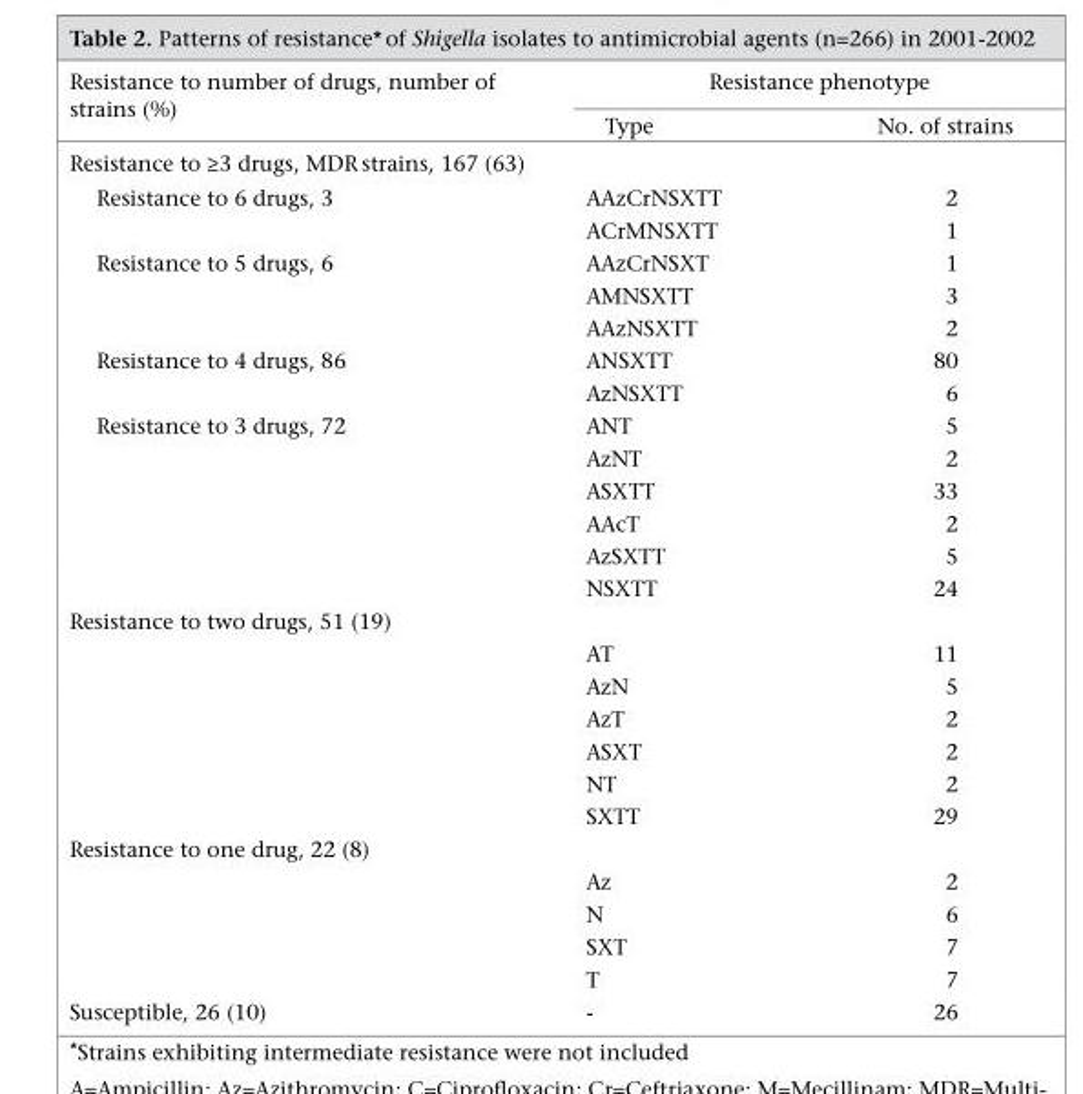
<table><thead><tr><td rowspan="2">Resistance to number of drugs, number of strains (%)</td><td colspan="2">Resistance phenotype</td></tr><tr><td>Type</td><td>No. of strains</td></tr></thead><tbody><tr><td colspan="3">Resistance to ≥3 drugs, MDR strains, 167 (63)</td></tr><tr><td rowspan="2">Resistance to 6 drugs, 3</td><td>AAzCrNSXTT</td><td>2</td></tr><tr><td>ACrMNSXTT</td><td>1</td></tr><tr><td rowspan="3">Resistance to 5 drugs, 6</td><td>AAzCrNSXT</td><td>1</td></tr><tr><td>AMNSXTT</td><td>3</td></tr><tr><td>AAzNSXTT</td><td>2</td></tr><tr><td rowspan="2">Resistance to 4 drugs, 86</td><td>ANSXTT</td><td>80</td></tr><tr><td>AzNSXTT</td><td>6</td></tr><tr><td rowspan="6">Resistance to 3 drugs, 72</td><td>ANT</td><td>5</td></tr><tr><td>AzNT</td><td>2</td></tr><tr><td>ASXTT</td><td>33</td></tr><tr><td>AAcT</td><td>2</td></tr><tr><td>AzSXTT</td><td>5</td></tr><tr><td>NSXTT</td><td>24</td></tr><tr><td colspan="3">Resistance to two drugs, 51 (19)</td></tr><tr><td></td><td>AT</td><td>11</td></tr><tr><td></td><td>AzN</td><td>5</td></tr><tr><td></td><td>AzT</td><td>2</td></tr><tr><td></td><td>ASXT</td><td>2</td></tr><tr><td></td><td>NT</td><td>2</td></tr><tr><td></td><td>SXTT</td><td>29</td></tr><tr><td colspan="3">Resistance to one drug, 22 (8)</td></tr><tr><td></td><td>Az</td><td>2</td></tr><tr><td></td><td>N</td><td>6</td></tr><tr><td></td><td>SXT</td><td>7</td></tr><tr><td></td><td>T</td><td>7</td></tr><tr><td>Susceptible, 26 (10)</td><td>-</td><td>26</td></tr></tbody></table>